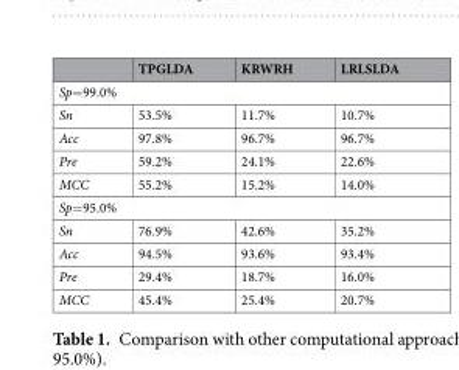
<table><thead><tr><td></td><td>TPGLDA</td><td>KRWRH</td><td>LRLSLDA</td></tr></thead><tbody><tr><td colspan="4">Sp=99.0%</td></tr><tr><td>Sn</td><td>53.5%</td><td>11.7%</td><td>10.7%</td></tr><tr><td>Acc</td><td>97.8%</td><td>96.7%</td><td>96.7%</td></tr><tr><td>Pre</td><td>59.2%</td><td>24.1%</td><td>22.6%</td></tr><tr><td>MCC</td><td>55.2%</td><td>15.2%</td><td>14.0%</td></tr><tr><td colspan="4">Sp=95.0%</td></tr><tr><td>Sn</td><td>76.9%</td><td>42.6%</td><td>35.2%</td></tr><tr><td>Acc</td><td>94.5%</td><td>93.6%</td><td>93.4%</td></tr><tr><td>Pre</td><td>29.4%</td><td>18.7%</td><td>16.0%</td></tr><tr><td>MCC</td><td>45.4%</td><td>25.4%</td><td>20.7%</td></tr></tbody></table>